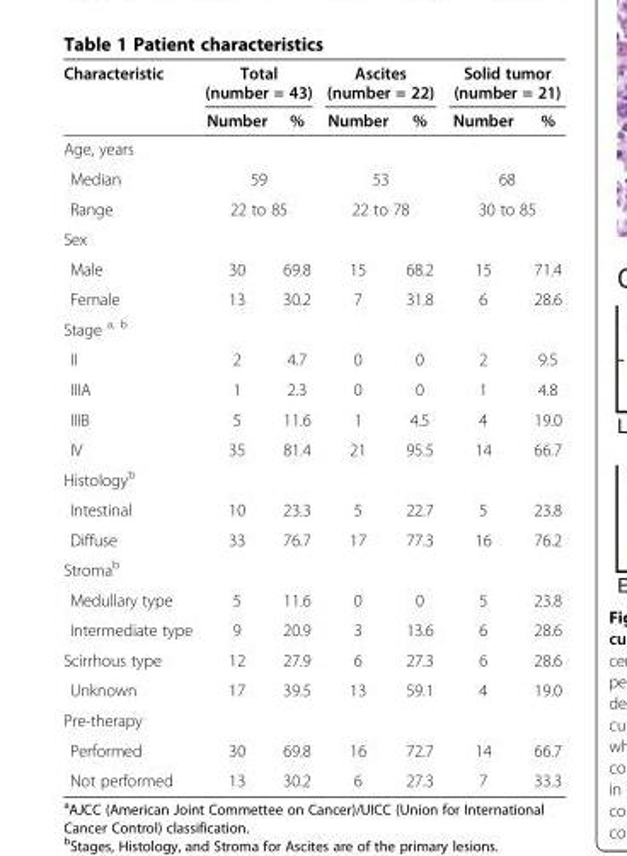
<table><thead><tr><td rowspan="2">Characteristic</td><td colspan="2">Total (number = 43)</td><td colspan="2">Ascites (number = 22)</td><td colspan="2">Solid tumor (number = 21)</td></tr><tr><td>Number</td><td>%</td><td>Number</td><td>%</td><td>Number</td><td>%</td></tr></thead><tbody><tr><td colspan="7">Age, years</td></tr><tr><td>Median</td><td colspan="2">59</td><td colspan="2">53</td><td colspan="2">68</td></tr><tr><td>Range</td><td colspan="2">22 to 85</td><td colspan="2">22 to 78</td><td colspan="2">30 to 85</td></tr><tr><td colspan="7">Sex</td></tr><tr><td>Male</td><td>30</td><td>69.8</td><td>15</td><td>68.2</td><td>15</td><td>71.4</td></tr><tr><td>Female</td><td>13</td><td>30.2</td><td>7</td><td>31.8</td><td>6</td><td>28.6</td></tr><tr><td colspan="7">Stage <sup>a, b</sup></td></tr><tr><td>II</td><td>2</td><td>4.7</td><td>0</td><td>0</td><td>2</td><td>9.5</td></tr><tr><td>IIIA</td><td>1</td><td>2.3</td><td>0</td><td>0</td><td>1</td><td>4.8</td></tr><tr><td>IIIB</td><td>5</td><td>11.6</td><td>1</td><td>4.5</td><td>4</td><td>19.0</td></tr><tr><td>IV</td><td>35</td><td>81.4</td><td>21</td><td>95.5</td><td>14</td><td>66.7</td></tr><tr><td colspan="7">Histology<sup>b</sup></td></tr><tr><td>Intestinal</td><td>10</td><td>23.3</td><td>5</td><td>22.7</td><td>5</td><td>23.8</td></tr><tr><td>Diffuse</td><td>33</td><td>76.7</td><td>17</td><td>77.3</td><td>16</td><td>76.2</td></tr><tr><td colspan="7">Stroma<sup>b</sup></td></tr><tr><td>Medullary type</td><td>5</td><td>11.6</td><td>0</td><td>0</td><td>5</td><td>23.8</td></tr><tr><td>Intermediate type</td><td>9</td><td>20.9</td><td>3</td><td>13.6</td><td>6</td><td>28.6</td></tr><tr><td>Scirrhous type</td><td>12</td><td>27.9</td><td>6</td><td>27.3</td><td>6</td><td>28.6</td></tr><tr><td>Unknown</td><td>17</td><td>39.5</td><td>13</td><td>59.1</td><td>4</td><td>19.0</td></tr><tr><td colspan="7">Pre-therapy</td></tr><tr><td>Performed</td><td>30</td><td>69.8</td><td>16</td><td>72.7</td><td>14</td><td>66.7</td></tr><tr><td>Not performed</td><td>13</td><td>30.2</td><td>6</td><td>27.3</td><td>7</td><td>33.3</td></tr></tbody></table>